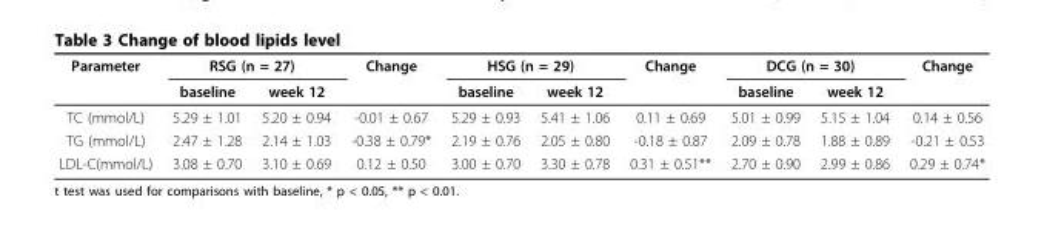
<table><thead><tr><td rowspan="2">Parameter</td><td colspan="2">RSG (n = 27)</td><td rowspan="2">Change</td><td colspan="2">HSG (n = 29)</td><td rowspan="2">Change</td><td colspan="2">DCG (n = 30)</td><td rowspan="2">Change</td></tr><tr><td>baseline</td><td>week 12</td><td>baseline</td><td>week 12</td><td>baseline</td><td>week 12</td></tr></thead><tbody><tr><td>TC (mmol/L)</td><td>5.29 ± 1.01</td><td>5.20 ± 0.94</td><td>-0.01 ± 0.67</td><td>5.29 ± 0.93</td><td>5.41 ± 1.06</td><td>0.11 ± 0.69</td><td>5.01 ± 0.99</td><td>5.15 ± 1.04</td><td>0.14 ± 0.56</td></tr><tr><td>TG (mmol/L)</td><td>2.47 ± 1.28</td><td>2.14 ± 1.03</td><td>-0.38 ± 0.79*</td><td>2.19 ± 0.76</td><td>2.05 ± 0.80</td><td>-0.18 ± 0.87</td><td>2.09 ± 0.78</td><td>1.88 ± 0.89</td><td>-0.21 ± 0.53</td></tr><tr><td>LDL-C(mmol/L)</td><td>3.08 ± 0.70</td><td>3.10 ± 0.69</td><td>0.12 ± 0.50</td><td>3.00 ± 0.70</td><td>3.30 ± 0.78</td><td>0.31 ± 0.51**</td><td>2.70 ± 0.90</td><td>2.99 ± 0.86</td><td>0.29 ± 0.74*</td></tr></tbody></table>